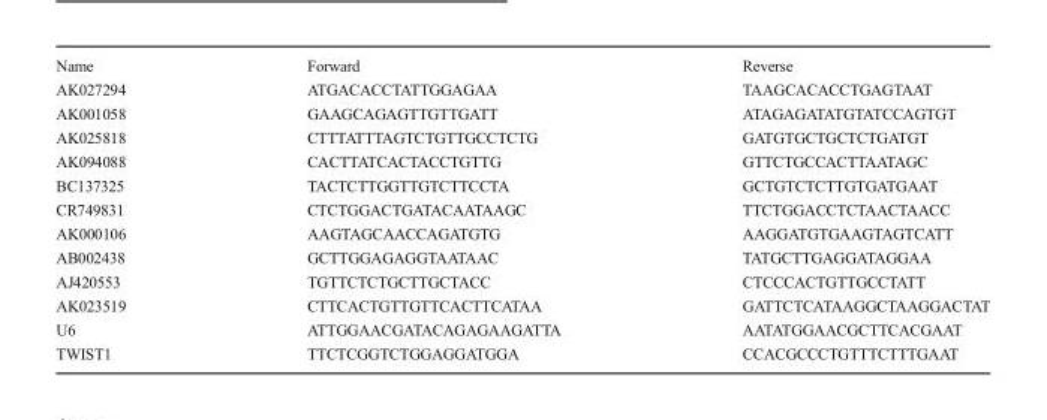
<table><tbody><tr><td>Name</td><td>Forward</td><td>Reverse</td></tr><tr><td>AK027294</td><td>ATGACACCTATTGGAGAA</td><td>TAAGCACACCTGAGTAAT</td></tr><tr><td>AK001058</td><td>GAAGCAGAGTTGTTGATT</td><td>ATAGAGATATGTATCCAGTGT</td></tr><tr><td>AK025818</td><td>CTTTATTTAGTCTGTTGCCTCTG</td><td>GATGTGCTGCTCTGATGT</td></tr><tr><td>AK094088</td><td>CACTTATCACTACCTGTTG</td><td>GTTCTGCCACTTAATAGC</td></tr><tr><td>BC137325</td><td>TACTCTTGGTTGTCTTCCTA</td><td>GCTGTCTCTTGTGATGAAT</td></tr><tr><td>CR749831</td><td>CTCTGGACTGATACAATAAGC</td><td>TTCTGGACCTCTAACTAACC</td></tr><tr><td>AK000106</td><td>AAGTAGCAACCAGATGTG</td><td>AAGGATGTGAAGTAGTCATT</td></tr><tr><td>AB002438</td><td>GCTTGGAGAGGTAATAAC</td><td>TATGCTTGAGGATAGGAA</td></tr><tr><td>AJ420553</td><td>TGTTCTCTGCTTGCTACC</td><td>CTCCCACTGTTGCCTATT</td></tr><tr><td>AK023519</td><td>CTTCACTGTTGTTCACTTCATAA</td><td>GATTCTCATAAGGCTAAGGACTAT</td></tr><tr><td>U6</td><td>ATTGGAACGATACAGAGAAGATTA</td><td>AATATGGAACGCTTCACGAAT</td></tr><tr><td>TWIST1</td><td>TTCTCGGTCTGGAGGATGGA</td><td>CCACGCCCTGTTTCTTTGAAT</td></tr></tbody></table>